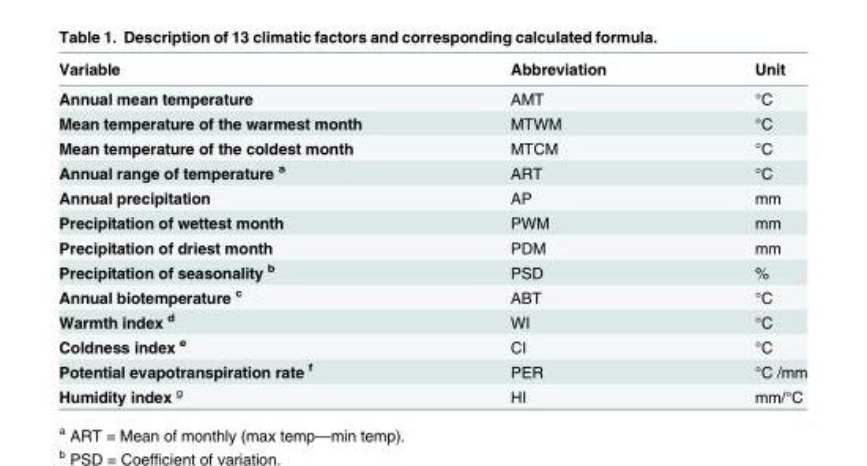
<table><thead><tr><td>Variable</td><td>Abbreviation</td><td>Unit</td></tr></thead><tbody><tr><td>Annual mean temperature</td><td>AMT</td><td>°C</td></tr><tr><td>Mean temperature of the warmest month</td><td>MTWM</td><td>°C</td></tr><tr><td>Mean temperature of the coldest month</td><td>MTCM</td><td>°C</td></tr><tr><td>Annual range of temperature <sup>a</sup></td><td>ART</td><td>°C</td></tr><tr><td>Annual precipitation</td><td>AP</td><td>mm</td></tr><tr><td>Precipitation of wettest month</td><td>PWM</td><td>mm</td></tr><tr><td>Precipitation of driest month</td><td>PDM</td><td>mm</td></tr><tr><td>Precipitation of seasonality <sup>b</sup></td><td>PSD</td><td>%</td></tr><tr><td>Annual biotemperature <sup>c</sup></td><td>ABT</td><td>°C</td></tr><tr><td>Warmth index <sup>d</sup></td><td>WI</td><td>°C</td></tr><tr><td>Coldness index <sup>e</sup></td><td>CI</td><td>°C</td></tr><tr><td>Potential evapotranspiration rate <sup>f</sup></td><td>PER</td><td>°C /mm</td></tr><tr><td>Humidity index <sup>g</sup></td><td>HI</td><td>mm/°C</td></tr></tbody></table>